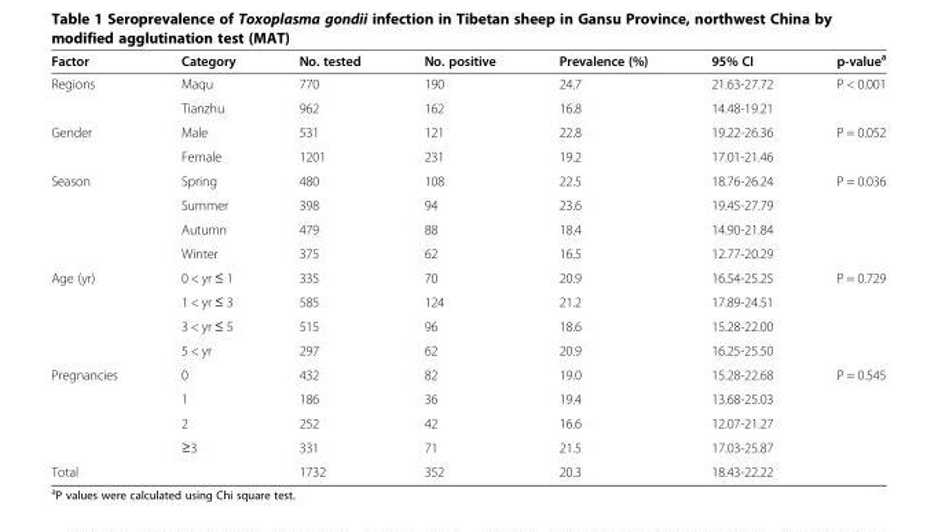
<table><thead><tr><td>Factor</td><td>Category</td><td>No. tested</td><td>No. positive</td><td>Prevalence (%)</td><td>95% CI</td><td>p-value<sup>a</sup></td></tr></thead><tbody><tr><td rowspan="2">Regions</td><td>Maqu</td><td>770</td><td>190</td><td>24.7</td><td>21.63-27.72</td><td>P &lt; 0.001</td></tr><tr><td>Tianzhu</td><td>962</td><td>162</td><td>16.8</td><td>14.48-19.21</td><td></td></tr><tr><td rowspan="2">Gender</td><td>Male</td><td>531</td><td>121</td><td>22.8</td><td>19.22-26.36</td><td>P = 0.052</td></tr><tr><td>Female</td><td>1201</td><td>231</td><td>19.2</td><td>17.01-21.46</td><td></td></tr><tr><td rowspan="4">Season</td><td>Spring</td><td>480</td><td>108</td><td>22.5</td><td>18.76-26.24</td><td>P = 0.036</td></tr><tr><td>Summer</td><td>398</td><td>94</td><td>23.6</td><td>19.45-27.79</td><td></td></tr><tr><td>Autumn</td><td>479</td><td>88</td><td>18.4</td><td>14.90-21.84</td><td></td></tr><tr><td>Winter</td><td>375</td><td>62</td><td>16.5</td><td>12.77-20.29</td><td></td></tr><tr><td rowspan="4">Age (yr)</td><td>0 &lt; yr ≤ 1</td><td>335</td><td>70</td><td>20.9</td><td>16.54-25.25</td><td>P = 0.729</td></tr><tr><td>1 &lt; yr ≤ 3</td><td>585</td><td>124</td><td>21.2</td><td>17.89-24.51</td><td></td></tr><tr><td>3 &lt; yr ≤ 5</td><td>515</td><td>96</td><td>18.6</td><td>15.28-22.00</td><td></td></tr><tr><td>5 &lt; yr</td><td>297</td><td>62</td><td>20.9</td><td>16.25-25.50</td><td></td></tr><tr><td rowspan="4">Pregnancies</td><td>0</td><td>432</td><td>82</td><td>19.0</td><td>15.28-22.68</td><td>P = 0.545</td></tr><tr><td>1</td><td>186</td><td>36</td><td>19.4</td><td>13.68-25.03</td><td></td></tr><tr><td>2</td><td>252</td><td>42</td><td>16.6</td><td>12.07-21.27</td><td></td></tr><tr><td>≥3</td><td>331</td><td>71</td><td>21.5</td><td>17.03-25.87</td><td></td></tr><tr><td>Total</td><td></td><td>1732</td><td>352</td><td>20.3</td><td>18.43-22.22</td><td></td></tr></tbody></table>